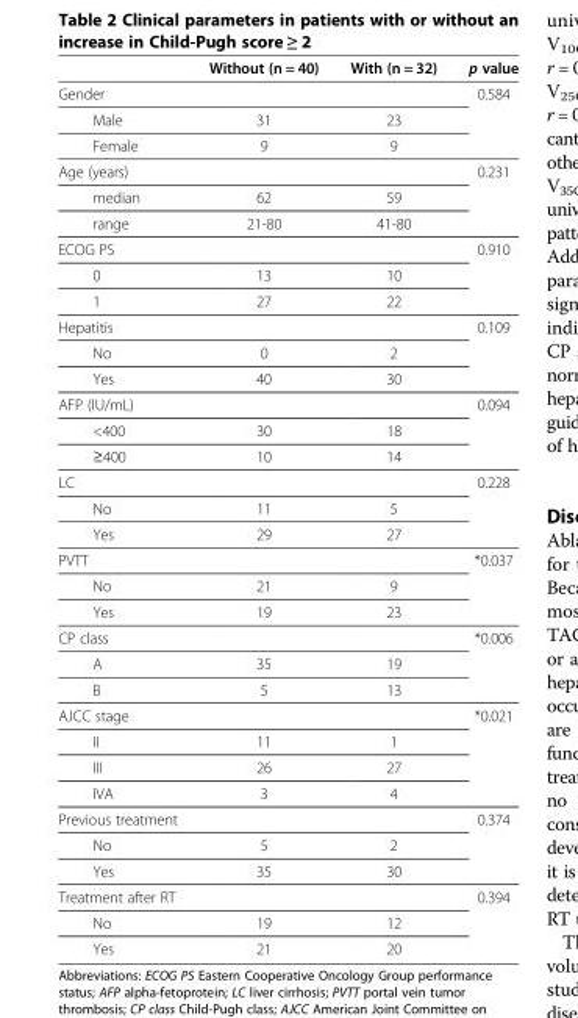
<table><thead><tr><td></td><td>Without (n = 40)</td><td>With (n = 32)</td><td>p value</td></tr></thead><tbody><tr><td colspan="3">Gender</td><td rowspan="3">0.584</td></tr><tr><td>Male</td><td>31</td><td>23</td></tr><tr><td>Female</td><td>9</td><td>9</td></tr><tr><td colspan="3">Age (years)</td><td rowspan="3">0.231</td></tr><tr><td>median</td><td>62</td><td>59</td></tr><tr><td>range</td><td>21-80</td><td>41-80</td></tr><tr><td colspan="3">ECOG PS</td><td rowspan="3">0.910</td></tr><tr><td>0</td><td>13</td><td>10</td></tr><tr><td>1</td><td>27</td><td>22</td></tr><tr><td colspan="3">Hepatitis</td><td rowspan="3">0.109</td></tr><tr><td>No</td><td>0</td><td>2</td></tr><tr><td>Yes</td><td>40</td><td>30</td></tr><tr><td colspan="3">AFP (IU/mL)</td><td rowspan="3">0.094</td></tr><tr><td>&lt;400</td><td>30</td><td>18</td></tr><tr><td>≥400</td><td>10</td><td>14</td></tr><tr><td colspan="3">LC</td><td rowspan="3">0.228</td></tr><tr><td>No</td><td>11</td><td>5</td></tr><tr><td>Yes</td><td>29</td><td>27</td></tr><tr><td colspan="3">PVTT</td><td rowspan="3">*0.037</td></tr><tr><td>No</td><td>21</td><td>9</td></tr><tr><td>Yes</td><td>19</td><td>23</td></tr><tr><td colspan="3">CP class</td><td rowspan="3">*0.006</td></tr><tr><td>A</td><td>35</td><td>19</td></tr><tr><td>B</td><td>5</td><td>13</td></tr><tr><td colspan="3">AJCC stage</td><td rowspan="4">*0.021</td></tr><tr><td>II</td><td>11</td><td>1</td></tr><tr><td>III</td><td>26</td><td>27</td></tr><tr><td>IVA</td><td>3</td><td>4</td></tr><tr><td colspan="3">Previous treatment</td><td rowspan="3">0.374</td></tr><tr><td>No</td><td>5</td><td>2</td></tr><tr><td>Yes</td><td>35</td><td>30</td></tr><tr><td colspan="3">Treatment after RT</td><td rowspan="3">0.394</td></tr><tr><td>No</td><td>19</td><td>12</td></tr><tr><td>Yes</td><td>21</td><td>20</td></tr></tbody></table>